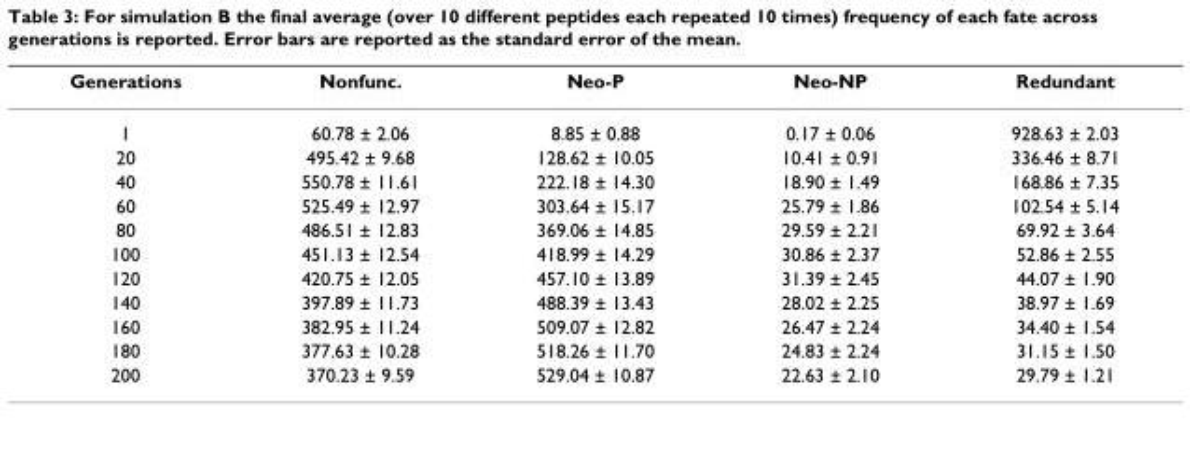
<table><thead><tr><td>Generations</td><td>Nonfunc.</td><td>Neo-P</td><td>Neo-NP</td><td>Redundant</td></tr></thead><tbody><tr><td>1</td><td>60.78 ± 2.06</td><td>8.85 ± 0.88</td><td>0.17 ± 0.06</td><td>928.63 ± 2.03</td></tr><tr><td>20</td><td>495.42 ± 9.68</td><td>128.62 ± 10.05</td><td>10.41 ± 0.91</td><td>336.46 ± 8.71</td></tr><tr><td>40</td><td>550.78 ± 11.61</td><td>222.18 ± 14.30</td><td>18.90 ± 1.49</td><td>168.86 ± 7.35</td></tr><tr><td>60</td><td>525.49 ± 12.97</td><td>303.64 ± 15.17</td><td>25.79 ± 1.86</td><td>102.54 ± 5.14</td></tr><tr><td>80</td><td>486.51 ± 12.83</td><td>369.06 ± 14.85</td><td>29.59 ± 2.21</td><td>69.92 ± 3.64</td></tr><tr><td>100</td><td>451.13 ± 12.54</td><td>418.99 ± 14.29</td><td>30.86 ± 2.37</td><td>52.86 ± 2.55</td></tr><tr><td>120</td><td>420.75 ± 12.05</td><td>457.10 ± 13.89</td><td>31.39 ± 2.45</td><td>44.07 ± 1.90</td></tr><tr><td>140</td><td>397.89 ± 11.73</td><td>488.39 ± 13.43</td><td>28.02 ± 2.25</td><td>38.97 ± 1.69</td></tr><tr><td>160</td><td>382.95 ± 11.24</td><td>509.07 ± 12.82</td><td>26.47 ± 2.24</td><td>34.40 ± 1.54</td></tr><tr><td>180</td><td>377.63 ± 10.28</td><td>518.26 ± 11.70</td><td>24.83 ± 2.24</td><td>31.15 ± 1.50</td></tr><tr><td>200</td><td>370.23 ± 9.59</td><td>529.04 ± 10.87</td><td>22.63 ± 2.10</td><td>29.79 ± 1.21</td></tr></tbody></table>